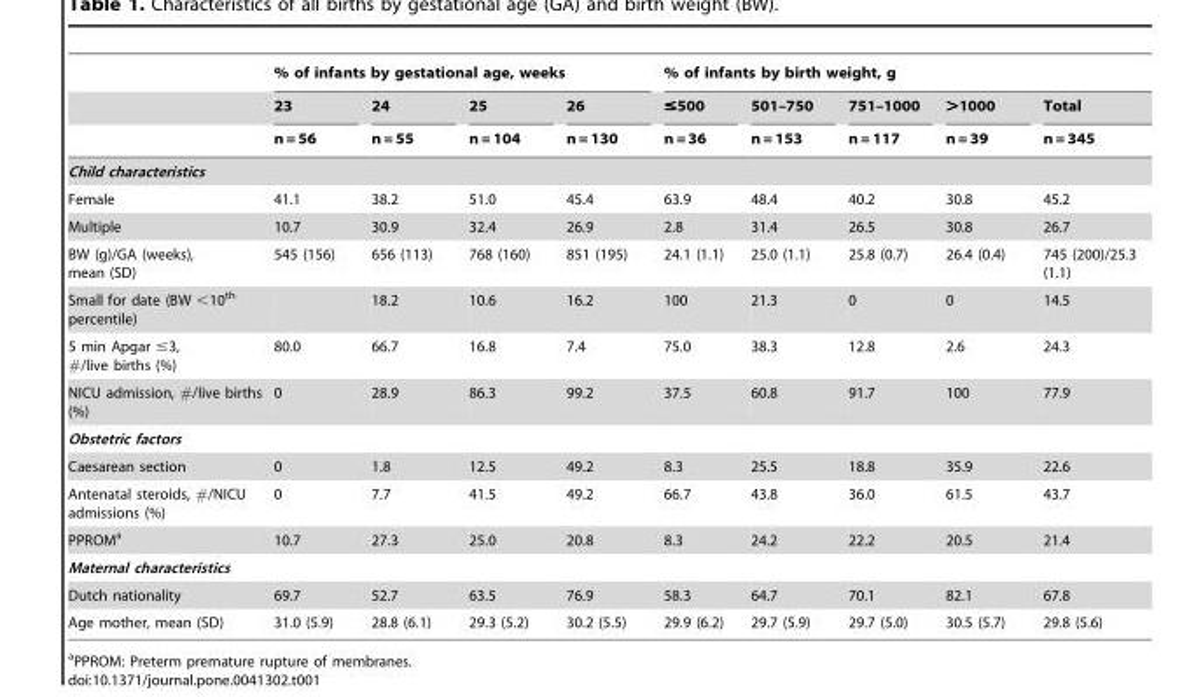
<table><thead><tr><td rowspan="3"></td><td colspan="4">% of infants by gestational age, weeks</td><td colspan="5">% of infants by birth weight, g</td></tr><tr><td rowspan="2">23 n = 56</td><td rowspan="2">24 n = 55</td><td rowspan="2">25 n = 104</td><td rowspan="2">26 n = 130</td><td rowspan="2">≤500 n = 36</td><td rowspan="2">501–750 n = 153</td><td rowspan="2">751–1000 n = 117</td><td rowspan="2">&gt;1000 n = 39</td><td rowspan="2">Total n = 345</td></tr><tr></tr></thead><tbody><tr><td colspan="10">Child characteristics</td></tr><tr><td>Female</td><td>41.1</td><td>38.2</td><td>51.0</td><td>45.4</td><td>63.9</td><td>48.4</td><td>40.2</td><td>30.8</td><td>45.2</td></tr><tr><td>Multiple</td><td>10.7</td><td>30.9</td><td>32.4</td><td>26.9</td><td>2.8</td><td>31.4</td><td>26.5</td><td>30.8</td><td>26.7</td></tr><tr><td>BW (g)/GA (weeks), mean (SD)</td><td>545 (156)</td><td>656 (113)</td><td>768 (160)</td><td>851 (195)</td><td>24.1 (1.1)</td><td>25.0 (1.1)</td><td>25.8 (0.7)</td><td>26.4 (0.4)</td><td>745 (200)/25.3 (1.1)</td></tr><tr><td>Small for date (BW &lt;10<sup>th</sup> percentile)</td><td></td><td>18.2</td><td>10.6</td><td>16.2</td><td>100</td><td>21.3</td><td>0</td><td>0</td><td>14.5</td></tr><tr><td>5 min Apgar ≤3, #/live births (%)</td><td>80.0</td><td>66.7</td><td>16.8</td><td>7.4</td><td>75.0</td><td>38.3</td><td>12.8</td><td>2.6</td><td>24.3</td></tr><tr><td>NICU admission, #/live births (%)</td><td>0</td><td>28.9</td><td>86.3</td><td>99.2</td><td>37.5</td><td>60.8</td><td>91.7</td><td>100</td><td>77.9</td></tr><tr><td colspan="10">Obstetric factors</td></tr><tr><td>Caesarean section</td><td>0</td><td>1.8</td><td>12.5</td><td>49.2</td><td>8.3</td><td>25.5</td><td>18.8</td><td>35.9</td><td>22.6</td></tr><tr><td>Antenatal steroids, #/NICU admissions (%)</td><td>0</td><td>7.7</td><td>41.5</td><td>49.2</td><td>66.7</td><td>43.8</td><td>36.0</td><td>61.5</td><td>43.7</td></tr><tr><td>PPROM<sup>a</sup></td><td>10.7</td><td>27.3</td><td>25.0</td><td>20.8</td><td>8.3</td><td>24.2</td><td>22.2</td><td>20.5</td><td>21.4</td></tr><tr><td colspan="10">Maternal characteristics</td></tr><tr><td>Dutch nationality</td><td>69.7</td><td>52.7</td><td>63.5</td><td>76.9</td><td>58.3</td><td>64.7</td><td>70.1</td><td>82.1</td><td>67.8</td></tr><tr><td>Age mother, mean (SD)</td><td>31.0 (5.9)</td><td>28.8 (6.1)</td><td>29.3 (5.2)</td><td>30.2 (5.5)</td><td>29.9 (6.2)</td><td>29.7 (5.9)</td><td>29.7 (5.0)</td><td>30.5 (5.7)</td><td>29.8 (5.6)</td></tr></tbody></table>